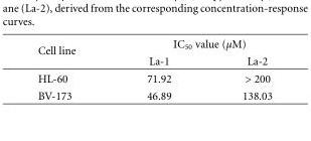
<table><tbody><tr><td rowspan="2">Cell line</td><td colspan="2">IC<sub>50</sub> value (μM)</td></tr><tr><td>La-1</td><td>La-2</td></tr><tr><td>HL-60</td><td>71.92</td><td>&gt; 200</td></tr><tr><td>BV-173</td><td>46.89</td><td>138.03</td></tr></tbody></table>